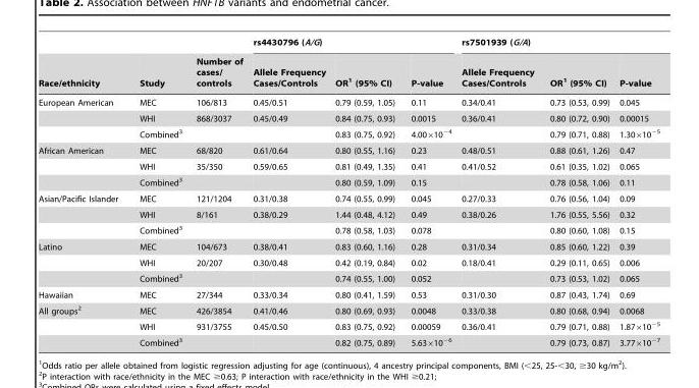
<table><thead><tr><td rowspan="2">Race/ethnicity</td><td rowspan="2">Study</td><td rowspan="2">Number of cases/ controls</td><td colspan="3">rs4430796 (A/G)</td><td colspan="3">rs7501939 (G/A)</td></tr><tr><td>Allele Frequency Cases/Controls</td><td>OR<sup>1</sup> (95% CI)</td><td>P-value</td><td>Allele Frequency Cases/Controls</td><td>OR<sup>1</sup> (95% CI)</td><td>P-value</td></tr></thead><tbody><tr><td rowspan="3">European American</td><td>MEC</td><td>106/813</td><td>0.45/0.51</td><td>0.79 (0.59, 1.05)</td><td>0.11</td><td>0.34/0.41</td><td>0.73 (0.53, 0.99)</td><td>0.045</td></tr><tr><td>WHI</td><td>868/3037</td><td>0.45/0.49</td><td>0.84 (0.75, 0.93)</td><td>0.0015</td><td>0.36/0.41</td><td>0.80 (0.72, 0.90)</td><td>0.00015</td></tr><tr><td>Combined<sup>3</sup></td><td></td><td></td><td>0.83 (0.75, 0.92)</td><td>4.00×10<sup>−4</sup></td><td></td><td>0.79 (0.71, 0.88)</td><td>1.30×10<sup>−5</sup></td></tr><tr><td rowspan="3">African American</td><td>MEC</td><td>68/820</td><td>0.61/0.64</td><td>0.80 (0.55, 1.16)</td><td>0.23</td><td>0.48/0.51</td><td>0.88 (0.61, 1.26)</td><td>0.47</td></tr><tr><td>WHI</td><td>35/350</td><td>0.59/0.65</td><td>0.81 (0.49, 1.35)</td><td>0.41</td><td>0.41/0.52</td><td>0.61 (0.35, 1.02)</td><td>0.065</td></tr><tr><td>Combined<sup>3</sup></td><td></td><td></td><td>0.80 (0.59, 1.09)</td><td>0.15</td><td></td><td>0.78 (0.58, 1.06)</td><td>0.11</td></tr><tr><td rowspan="3">Asian/Pacific Islander</td><td>MEC</td><td>121/1204</td><td>0.31/0.38</td><td>0.74 (0.55, 0.99)</td><td>0.045</td><td>0.27/0.33</td><td>0.76 (0.56, 1.04)</td><td>0.09</td></tr><tr><td>WHI</td><td>8/161</td><td>0.38/0.29</td><td>1.44 (0.48, 4.12)</td><td>0.49</td><td>0.38/0.26</td><td>1.76 (0.55, 5.56)</td><td>0.32</td></tr><tr><td>Combined<sup>3</sup></td><td></td><td></td><td>0.78 (0.58, 1.03)</td><td>0.078</td><td></td><td>0.80 (0.60, 1.08)</td><td>0.15</td></tr><tr><td rowspan="3">Latino</td><td>MEC</td><td>104/673</td><td>0.38/0.41</td><td>0.83 (0.60, 1.16)</td><td>0.28</td><td>0.31/0.34</td><td>0.85 (0.60, 1.22)</td><td>0.39</td></tr><tr><td>WHI</td><td>20/207</td><td>0.30/0.48</td><td>0.42 (0.19, 0.84)</td><td>0.02</td><td>0.18/0.41</td><td>0.29 (0.11, 0.65)</td><td>0.006</td></tr><tr><td>Combined<sup>3</sup></td><td></td><td></td><td>0.74 (0.55, 1.00)</td><td>0.052</td><td></td><td>0.73 (0.53, 1.02)</td><td>0.065</td></tr><tr><td>Hawaiian</td><td>MEC</td><td>27/344</td><td>0.33/0.34</td><td>0.80 (0.41, 1.59)</td><td>0.53</td><td>0.31/0.30</td><td>0.87 (0.43, 1.74)</td><td>0.69</td></tr><tr><td rowspan="3">All groups<sup>2</sup></td><td>MEC</td><td>426/3854</td><td>0.41/0.46</td><td>0.80 (0.69, 0.93)</td><td>0.0048</td><td>0.33/0.38</td><td>0.80 (0.68, 0.94)</td><td>0.0068</td></tr><tr><td>WHI</td><td>931/3755</td><td>0.45/0.50</td><td>0.83 (0.75, 0.92)</td><td>0.00059</td><td>0.36/0.41</td><td>0.79 (0.71, 0.88)</td><td>1.87×10<sup>−5</sup></td></tr><tr><td>Combined<sup>3</sup></td><td></td><td></td><td>0.82 (0.75, 0.89)</td><td>5.63×10<sup>−6</sup></td><td></td><td>0.79 (0.73, 0.87)</td><td>3.77×10<sup>−7</sup></td></tr></tbody></table>